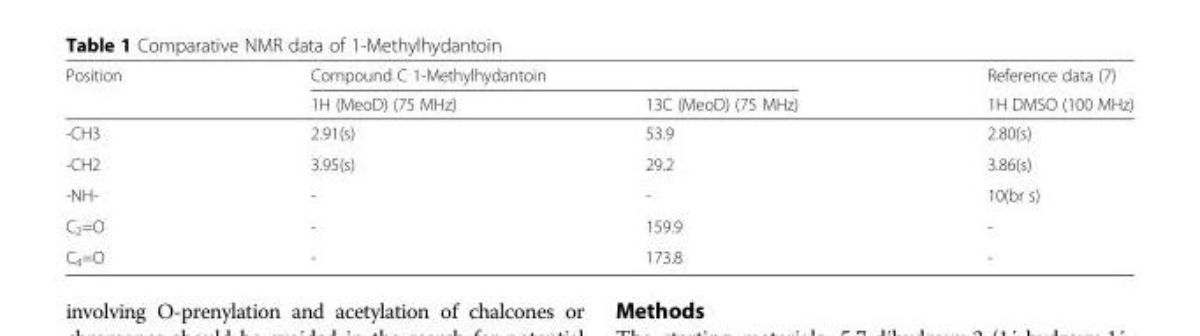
<table><thead><tr><td rowspan="2">Position</td><td colspan="2">Compound C 1-Methylhydantoin</td><td rowspan="2">Reference data (7) 1H DMSO (100 MHz)</td></tr><tr><td>1H (MeoD) (75 MHz)</td><td>13C (MeoD) (75 MHz)</td></tr></thead><tbody><tr><td>-CH3</td><td>2.91(s)</td><td>53.9</td><td>2.80(s)</td></tr><tr><td>-CH2</td><td>3.95(s)</td><td>29.2</td><td>3.86(s)</td></tr><tr><td>-NH-</td><td>-</td><td>-</td><td>10(br s)</td></tr><tr><td>C<sub>2</sub>=O</td><td>-</td><td>159.9</td><td>-</td></tr><tr><td>C<sub>4</sub>=O</td><td>-</td><td>173.8</td><td>-</td></tr></tbody></table>